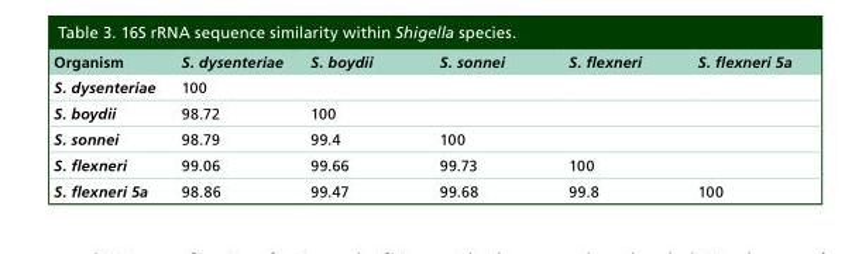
<table><thead><tr><td>Organism</td><td>S. dysenteriae</td><td>S. boydii</td><td>S. sonnei</td><td>S. flexneri</td><td>S. flexneri 5a</td></tr></thead><tbody><tr><td>S. dysenteriae</td><td>100</td><td></td><td></td><td></td><td></td></tr><tr><td>S. boydii</td><td>98.72</td><td>100</td><td></td><td></td><td></td></tr><tr><td>S. sonnei</td><td>98.79</td><td>99.4</td><td>100</td><td></td><td></td></tr><tr><td>S. flexneri</td><td>99.06</td><td>99.66</td><td>99.73</td><td>100</td><td></td></tr><tr><td>S. flexneri 5a</td><td>98.86</td><td>99.47</td><td>99.68</td><td>99.8</td><td>100</td></tr></tbody></table>